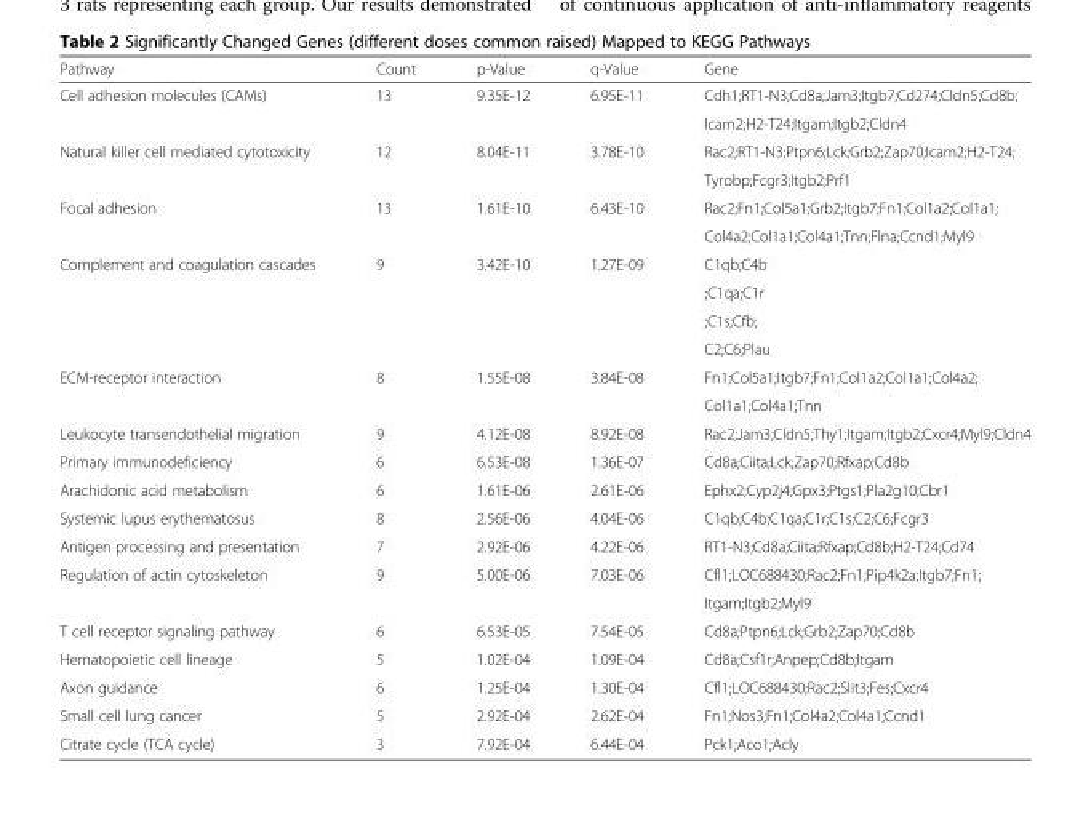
<table><thead><tr><td>Pathway</td><td>Count</td><td>p-Value</td><td>q-Value</td><td>Gene</td></tr></thead><tbody><tr><td rowspan="2">Cell adhesion molecules (CAMs)</td><td rowspan="2">13</td><td rowspan="2">9.35E-12</td><td rowspan="2">6.95E-11</td><td>Cdh1;RT1-N3;Cd8a;Jam3;Itgb7;Cd274;Cldn5;Cd8b;</td></tr><tr><td>Icam2;H2-T24;Itgam;Itgb2;Cldn4</td></tr><tr><td rowspan="2">Natural killer cell mediated cytotoxicity</td><td rowspan="2">12</td><td rowspan="2">8.04E-11</td><td rowspan="2">3.78E-10</td><td>Rac2;RT1-N3;Ptpn6;Lck;Grb2;Zap70;Icam2;H2-T24;</td></tr><tr><td>Tyrobp;Fcgr3;Itgb2;Prf1</td></tr><tr><td rowspan="2">Focal adhesion</td><td rowspan="2">13</td><td rowspan="2">1.61E-10</td><td rowspan="2">6.43E-10</td><td>Rac2;Fn1;Col5a1;Grb2;Itgb7;Fn1;Col1a2;Col1a1;</td></tr><tr><td>Col4a2;Col1a1;Col4a1;Tnn;Flna;Ccnd1;Myl9</td></tr><tr><td rowspan="4">Complement and coagulation cascades</td><td rowspan="4">9</td><td rowspan="4">3.42E-10</td><td rowspan="4">1.27E-09</td><td>C1qb;C4b</td></tr><tr><td>;C1qa;C1r</td></tr><tr><td>;C1s;Cfb;</td></tr><tr><td>C2;C6;Plau</td></tr><tr><td rowspan="2">ECM-receptor interaction</td><td rowspan="2">8</td><td rowspan="2">1.55E-08</td><td rowspan="2">3.84E-08</td><td>Fn1;Col5a1;Itgb7;Fn1;Col1a2;Col1a1;Col4a2;</td></tr><tr><td>Col1a1;Col4a1;Tnn</td></tr><tr><td>Leukocyte transendothelial migration</td><td>9</td><td>4.12E-08</td><td>8.92E-08</td><td>Rac2;Jam3;Cldn5;Thy1;Itgam;Itgb2;Cxcr4;Myl9;Cldn4</td></tr><tr><td>Primary immunodeficiency</td><td>6</td><td>6.53E-08</td><td>1.36E-07</td><td>Cd8a;Ciita;Lck;Zap70;Rfxap;Cd8b</td></tr><tr><td>Arachidonic acid metabolism</td><td>6</td><td>1.61E-06</td><td>2.61E-06</td><td>Ephx2;Cyp2j4;Gpx3;Ptgs1;Pla2g10;Cbr1</td></tr><tr><td>Systemic lupus erythematosus</td><td>8</td><td>2.56E-06</td><td>4.04E-06</td><td>C1qb;C4b;C1qa;C1r;C1s;C2;C6;Fcgr3</td></tr><tr><td>Antigen processing and presentation</td><td>7</td><td>2.92E-06</td><td>4.22E-06</td><td>RT1-N3;Cd8a;Ciita;Rfxap;Cd8b;H2-T24;Cd74</td></tr><tr><td rowspan="2">Regulation of actin cytoskeleton</td><td rowspan="2">9</td><td rowspan="2">5.00E-06</td><td rowspan="2">7.03E-06</td><td>Cfl1;LOC688430;Rac2;Fn1;Pip4k2a;Itgb7;Fn1;</td></tr><tr><td>Itgam;Itgb2;Myl9</td></tr><tr><td>T cell receptor signaling pathway</td><td>6</td><td>6.53E-05</td><td>7.54E-05</td><td>Cd8a;Ptpn6;Lck;Grb2;Zap70;Cd8b</td></tr><tr><td>Hematopoietic cell lineage</td><td>5</td><td>1.02E-04</td><td>1.09E-04</td><td>Cd8a;Csf1r;Anpep;Cd8b;Itgam</td></tr><tr><td>Axon guidance</td><td>6</td><td>1.25E-04</td><td>1.30E-04</td><td>Cfl1;LOC688430;Rac2;Slit3;Fes;Cxcr4</td></tr><tr><td>Small cell lung cancer</td><td>5</td><td>2.92E-04</td><td>2.62E-04</td><td>Fn1;Nos3;Fn1;Col4a2;Col4a1;Ccnd1</td></tr><tr><td>Citrate cycle (TCA cycle)</td><td>3</td><td>7.92E-04</td><td>6.44E-04</td><td>Pck1;Aco1;Acly</td></tr></tbody></table>